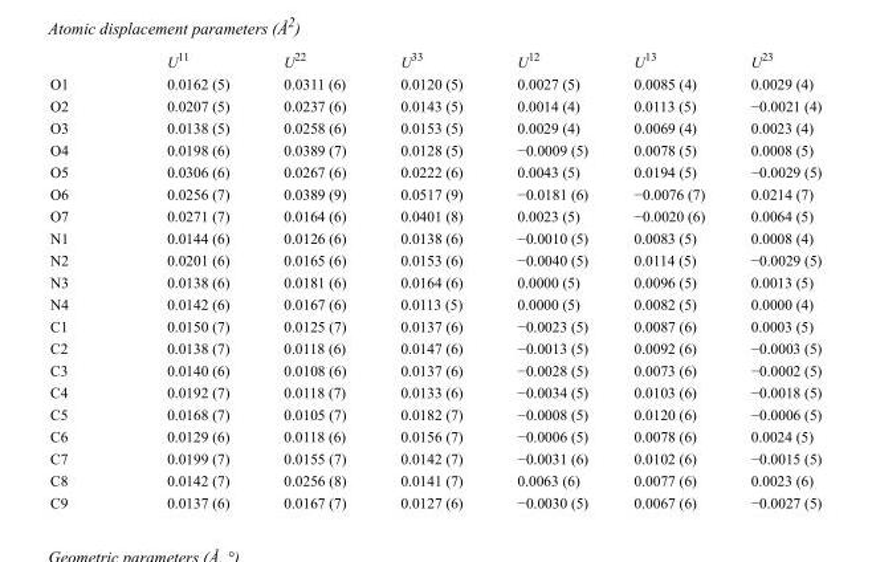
<table><thead><tr><td></td><td>U<sup>11</sup></td><td>U<sup>22</sup></td><td>U<sup>33</sup></td><td>U<sup>12</sup></td><td>U<sup>13</sup></td><td>U<sup>23</sup></td></tr></thead><tbody><tr><td>O1</td><td>0.0162 (5)</td><td>0.0311 (6)</td><td>0.0120 (5)</td><td>0.0027 (5)</td><td>0.0085 (4)</td><td>0.0029 (4)</td></tr><tr><td>O2</td><td>0.0207 (5)</td><td>0.0237 (6)</td><td>0.0143 (5)</td><td>0.0014 (4)</td><td>0.0113 (5)</td><td>−0.0021 (4)</td></tr><tr><td>O3</td><td>0.0138 (5)</td><td>0.0258 (6)</td><td>0.0153 (5)</td><td>0.0029 (4)</td><td>0.0069 (4)</td><td>0.0023 (4)</td></tr><tr><td>O4</td><td>0.0198 (6)</td><td>0.0389 (7)</td><td>0.0128 (5)</td><td>−0.0009 (5)</td><td>0.0078 (5)</td><td>0.0008 (5)</td></tr><tr><td>O5</td><td>0.0306 (6)</td><td>0.0267 (6)</td><td>0.0222 (6)</td><td>0.0043 (5)</td><td>0.0194 (5)</td><td>−0.0029 (5)</td></tr><tr><td>O6</td><td>0.0256 (7)</td><td>0.0389 (9)</td><td>0.0517 (9)</td><td>−0.0181 (6)</td><td>−0.0076 (7)</td><td>0.0214 (7)</td></tr><tr><td>O7</td><td>0.0271 (7)</td><td>0.0164 (6)</td><td>0.0401 (8)</td><td>0.0023 (5)</td><td>−0.0020 (6)</td><td>0.0064 (5)</td></tr><tr><td>N1</td><td>0.0144 (6)</td><td>0.0126 (6)</td><td>0.0138 (6)</td><td>−0.0010 (5)</td><td>0.0083 (5)</td><td>0.0008 (4)</td></tr><tr><td>N2</td><td>0.0201 (6)</td><td>0.0165 (6)</td><td>0.0153 (6)</td><td>−0.0040 (5)</td><td>0.0114 (5)</td><td>−0.0029 (5)</td></tr><tr><td>N3</td><td>0.0138 (6)</td><td>0.0181 (6)</td><td>0.0164 (6)</td><td>0.0000 (5)</td><td>0.0096 (5)</td><td>0.0013 (5)</td></tr><tr><td>N4</td><td>0.0142 (6)</td><td>0.0167 (6)</td><td>0.0113 (5)</td><td>0.0000 (5)</td><td>0.0082 (5)</td><td>0.0000 (4)</td></tr><tr><td>C1</td><td>0.0150 (7)</td><td>0.0125 (7)</td><td>0.0137 (6)</td><td>−0.0023 (5)</td><td>0.0087 (6)</td><td>0.0003 (5)</td></tr><tr><td>C2</td><td>0.0138 (7)</td><td>0.0118 (6)</td><td>0.0147 (6)</td><td>−0.0013 (5)</td><td>0.0092 (6)</td><td>−0.0003 (5)</td></tr><tr><td>C3</td><td>0.0140 (6)</td><td>0.0108 (6)</td><td>0.0137 (6)</td><td>−0.0028 (5)</td><td>0.0073 (6)</td><td>−0.0002 (5)</td></tr><tr><td>C4</td><td>0.0192 (7)</td><td>0.0118 (7)</td><td>0.0133 (6)</td><td>−0.0034 (5)</td><td>0.0103 (6)</td><td>−0.0018 (5)</td></tr><tr><td>C5</td><td>0.0168 (7)</td><td>0.0105 (7)</td><td>0.0182 (7)</td><td>−0.0008 (5)</td><td>0.0120 (6)</td><td>−0.0006 (5)</td></tr><tr><td>C6</td><td>0.0129 (6)</td><td>0.0118 (6)</td><td>0.0156 (7)</td><td>−0.0006 (5)</td><td>0.0078 (6)</td><td>0.0024 (5)</td></tr><tr><td>C7</td><td>0.0199 (7)</td><td>0.0155 (7)</td><td>0.0142 (7)</td><td>−0.0031 (6)</td><td>0.0102 (6)</td><td>−0.0015 (5)</td></tr><tr><td>C8</td><td>0.0142 (7)</td><td>0.0256 (8)</td><td>0.0141 (7)</td><td>0.0063 (6)</td><td>0.0077 (6)</td><td>0.0023 (6)</td></tr><tr><td>C9</td><td>0.0137 (6)</td><td>0.0167 (7)</td><td>0.0127 (6)</td><td>−0.0030 (5)</td><td>0.0067 (6)</td><td>−0.0027 (5)</td></tr></tbody></table>